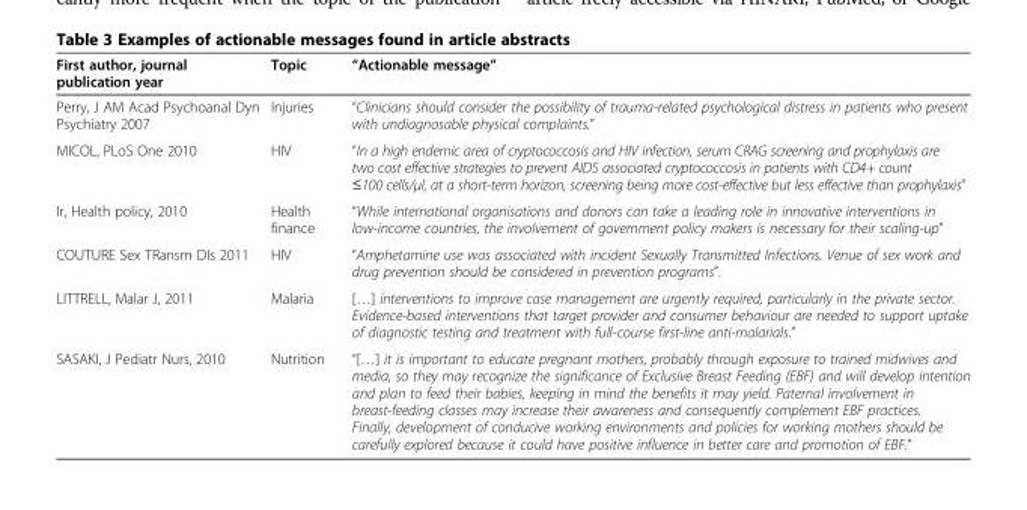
<table><thead><tr><td>First author, journal publication year</td><td>Topic</td><td>“Actionable message”</td></tr></thead><tbody><tr><td>Perry, J AM Acad Psychoanal Dyn Psychiatry 2007</td><td>Injuries</td><td>“Clinicians should consider the possibility of trauma-related psychological distress in patients who present with undiagnosable physical complaints.”</td></tr><tr><td>MICOL, PLoS One 2010</td><td>HIV</td><td>“In a high endemic area of cryptococcosis and HIV infection, serum CRAG screening and prophylaxis are two cost effective strategies to prevent AIDS associated cryptococcosis in patients with CD4+ count ≤100 cells/μl, at a short-term horizon, screening being more cost-effective but less effective than prophylaxis”</td></tr><tr><td>Ir, Health policy, 2010</td><td>Health finance</td><td>“While international organisations and donors can take a leading role in innovative interventions in low-income countries, the involvement of government policy makers is necessary for their scaling-up”</td></tr><tr><td>COUTURE Sex TRansm DIs 2011</td><td>HIV</td><td>“Amphetamine use was associated with incident Sexually Transmitted Infections. Venue of sex work and drug prevention should be considered in prevention programs”.</td></tr><tr><td>LITTRELL, Malar J, 2011</td><td>Malaria</td><td>[…] interventions to improve case management are urgently required, particularly in the private sector. Evidence-based interventions that target provider and consumer behaviour are needed to support uptake of diagnostic testing and treatment with full-course first-line anti-malarials.”</td></tr><tr><td>SASAKI, J Pediatr Nurs, 2010</td><td>Nutrition</td><td>“[…] it is important to educate pregnant mothers, probably through exposure to trained midwives and media, so they may recognize the significance of Exclusive Breast Feeding (EBF) and will develop intention and plan to feed their babies, keeping in mind the benefits it may yield. Paternal involvement in breast-feeding classes may increase their awareness and consequently complement EBF practices. Finally, development of conducive working environments and policies for working mothers should be carefully explored because it could have positive influence in better care and promotion of EBF.”</td></tr></tbody></table>